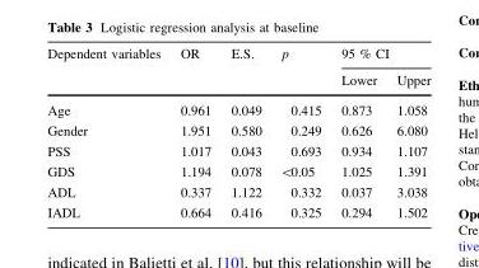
<table><thead><tr><td rowspan="2">Dependent variables</td><td rowspan="2">OR</td><td rowspan="2">E.S.</td><td rowspan="2">p</td><td colspan="2">95 % CI</td></tr><tr><td>Lower</td><td>Upper</td></tr></thead><tbody><tr><td>Age</td><td>0.961</td><td>0.049</td><td>0.415</td><td>0.873</td><td>1.058</td></tr><tr><td>Gender</td><td>1.951</td><td>0.580</td><td>0.249</td><td>0.626</td><td>6.080</td></tr><tr><td>PSS</td><td>1.017</td><td>0.043</td><td>0.693</td><td>0.934</td><td>1.107</td></tr><tr><td>GDS</td><td>1.194</td><td>0.078</td><td>&lt;0.05</td><td>1.025</td><td>1.391</td></tr><tr><td>ADL</td><td>0.337</td><td>1.122</td><td>0.332</td><td>0.037</td><td>3.038</td></tr><tr><td>IADL</td><td>0.664</td><td>0.416</td><td>0.325</td><td>0.294</td><td>1.502</td></tr></tbody></table>